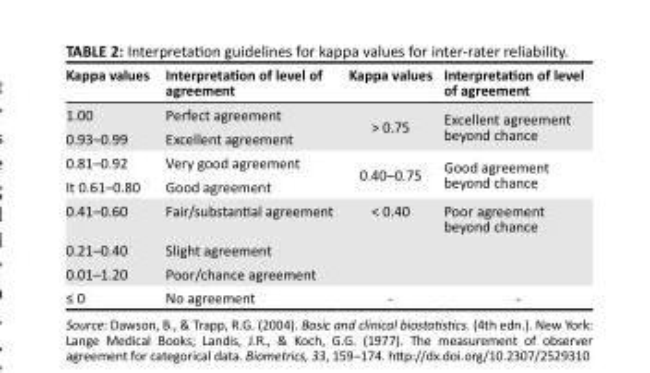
<table><thead><tr><td>Kappa values</td><td>Interpretation of level of agreement</td><td>Kappa values</td><td>Interpretation of level of agreement</td></tr></thead><tbody><tr><td>1.00</td><td>Perfect agreement</td><td rowspan="2">&gt; 0.75</td><td rowspan="2">Excellent agreement beyond chance</td></tr><tr><td>0.93–0.99</td><td>Excellent agreement</td></tr><tr><td>0.81–0.92</td><td>Very good agreement</td><td rowspan="2">0.40–0.75</td><td rowspan="2">Good agreement beyond chance</td></tr><tr><td>It 0.61–0.80</td><td>Good agreement</td></tr><tr><td>0.41–0.60</td><td>Fair/substantial agreement</td><td>&lt; 0.40</td><td>Poor agreement beyond chance</td></tr><tr><td>0.21–0.40</td><td>Slight agreement</td><td></td><td></td></tr><tr><td>0.01–1.20</td><td>Poor/chance agreement</td><td></td><td></td></tr><tr><td>≤ 0</td><td>No agreement</td><td>-</td><td>-</td></tr></tbody></table>